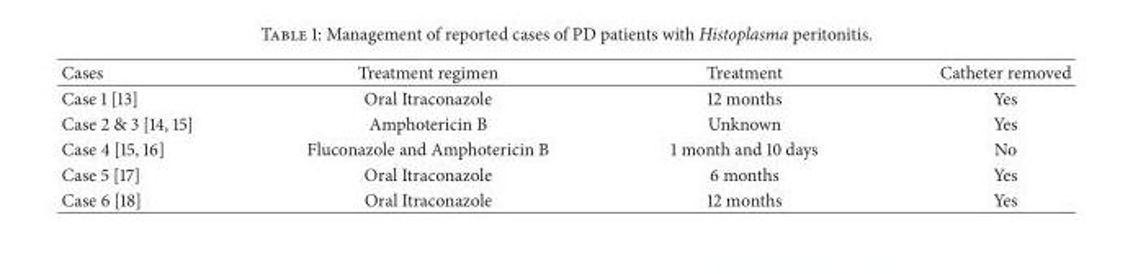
<table><thead><tr><td>Cases</td><td>Treatment regimen</td><td>Treatment</td><td>Catheter removed</td></tr></thead><tbody><tr><td>Case 1 [13]</td><td>Oral Itraconazole</td><td>12 months</td><td>Yes</td></tr><tr><td>Case 2 &amp; 3 [14, 15]</td><td>Amphotericin B</td><td>Unknown</td><td>Yes</td></tr><tr><td>Case 4 [15, 16]</td><td>Fluconazole and Amphotericin B</td><td>1 month and 10 days</td><td>No</td></tr><tr><td>Case 5 [17]</td><td>Oral Itraconazole</td><td>6 months</td><td>Yes</td></tr><tr><td>Case 6 [18]</td><td>Oral Itraconazole</td><td>12 months</td><td>Yes</td></tr></tbody></table>